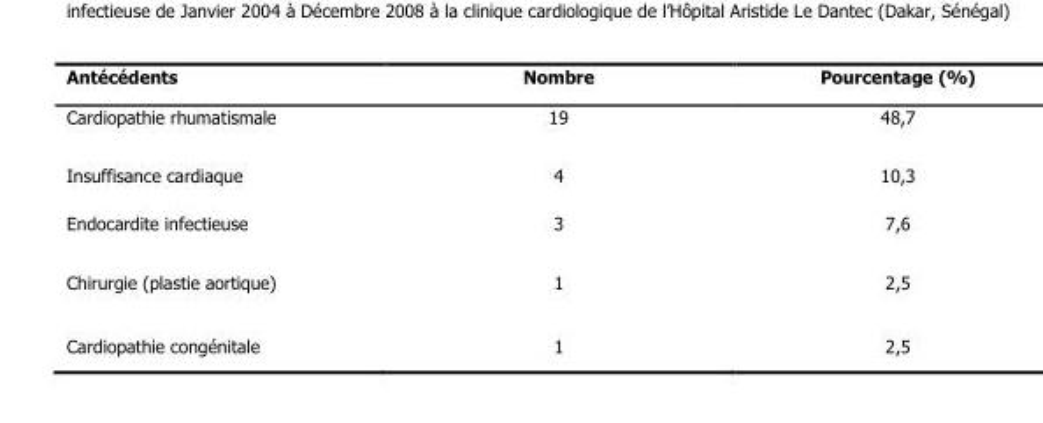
<table><thead><tr><td rowspan="6">Antécédents Cardiopathie rhumatismale Insuffisance cardiaque Endocardite infectieuse Chirurgie (plastie aortique) Cardiopathie congénitale</td><td rowspan="6">Nombre 19 4 3 1 1</td><td rowspan="6">Pourcentage (%) 48,7 10,3 7,6 2,5 2,5</td></tr><tr></tr><tr></tr><tr></tr><tr></tr><tr></tr></thead><tbody></tbody></table>